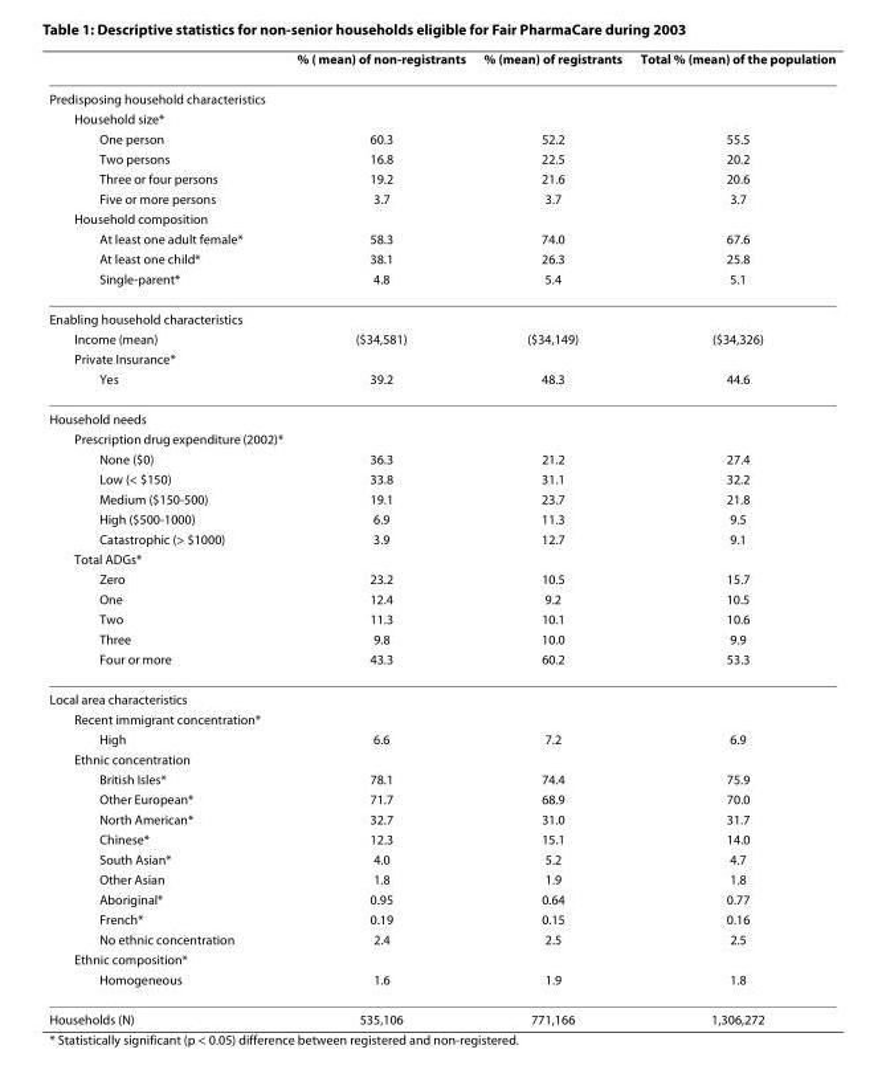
<table><thead><tr><td></td><td>% ( mean) of non-registrants</td><td>% (mean) of registrants</td><td>Total % (mean) of the population</td></tr></thead><tbody><tr><td colspan="4">Predisposing household characteristics</td></tr><tr><td colspan="4">Household size*</td></tr><tr><td>One person</td><td>60.3</td><td>52.2</td><td>55.5</td></tr><tr><td>Two persons</td><td>16.8</td><td>22.5</td><td>20.2</td></tr><tr><td>Three or four persons</td><td>19.2</td><td>21.6</td><td>20.6</td></tr><tr><td>Five or more persons</td><td>3.7</td><td>3.7</td><td>3.7</td></tr><tr><td colspan="4">Household composition</td></tr><tr><td>At least one adult female*</td><td>58.3</td><td>74.0</td><td>67.6</td></tr><tr><td>At least one child*</td><td>38.1</td><td>26.3</td><td>25.8</td></tr><tr><td>Single-parent*</td><td>4.8</td><td>5.4</td><td>5.1</td></tr><tr><td colspan="4">Enabling household characteristics</td></tr><tr><td>Income (mean)</td><td>($34,581)</td><td>($34,149)</td><td>($34,326)</td></tr><tr><td colspan="4">Private Insurance*</td></tr><tr><td>Yes</td><td>39.2</td><td>48.3</td><td>44.6</td></tr><tr><td colspan="4">Household needs</td></tr><tr><td colspan="4">Prescription drug expenditure (2002)*</td></tr><tr><td>None ($0)</td><td>36.3</td><td>21.2</td><td>27.4</td></tr><tr><td>Low (&lt; $150)</td><td>33.8</td><td>31.1</td><td>32.2</td></tr><tr><td>Medium ($150-500)</td><td>19.1</td><td>23.7</td><td>21.8</td></tr><tr><td>High ($500-1000)</td><td>6.9</td><td>11.3</td><td>9.5</td></tr><tr><td>Catastrophic (&gt; $1000)</td><td>3.9</td><td>12.7</td><td>9.1</td></tr><tr><td colspan="4">Total ADGs*</td></tr><tr><td>Zero</td><td>23.2</td><td>10.5</td><td>15.7</td></tr><tr><td>One</td><td>12.4</td><td>9.2</td><td>10.5</td></tr><tr><td>Two</td><td>11.3</td><td>10.1</td><td>10.6</td></tr><tr><td>Three</td><td>9.8</td><td>10.0</td><td>9.9</td></tr><tr><td>Four or more</td><td>43.3</td><td>60.2</td><td>53.3</td></tr><tr><td colspan="4">Local area characteristics</td></tr><tr><td colspan="4">Recent immigrant concentration*</td></tr><tr><td>High</td><td>6.6</td><td>7.2</td><td>6.9</td></tr><tr><td colspan="4">Ethnic concentration</td></tr><tr><td>British Isles*</td><td>78.1</td><td>74.4</td><td>75.9</td></tr><tr><td>Other European*</td><td>71.7</td><td>68.9</td><td>70.0</td></tr><tr><td>North American*</td><td>32.7</td><td>31.0</td><td>31.7</td></tr><tr><td>Chinese*</td><td>12.3</td><td>15.1</td><td>14.0</td></tr><tr><td>South Asian*</td><td>4.0</td><td>5.2</td><td>4.7</td></tr><tr><td>Other Asian</td><td>1.8</td><td>1.9</td><td>1.8</td></tr><tr><td>Aboriginal*</td><td>0.95</td><td>0.64</td><td>0.77</td></tr><tr><td>French*</td><td>0.19</td><td>0.15</td><td>0.16</td></tr><tr><td>No ethnic concentration</td><td>2.4</td><td>2.5</td><td>2.5</td></tr><tr><td colspan="4">Ethnic composition*</td></tr><tr><td>Homogeneous</td><td>1.6</td><td>1.9</td><td>1.8</td></tr><tr><td>Households (N)</td><td>535,106</td><td>771,166</td><td>1,306,272</td></tr></tbody></table>